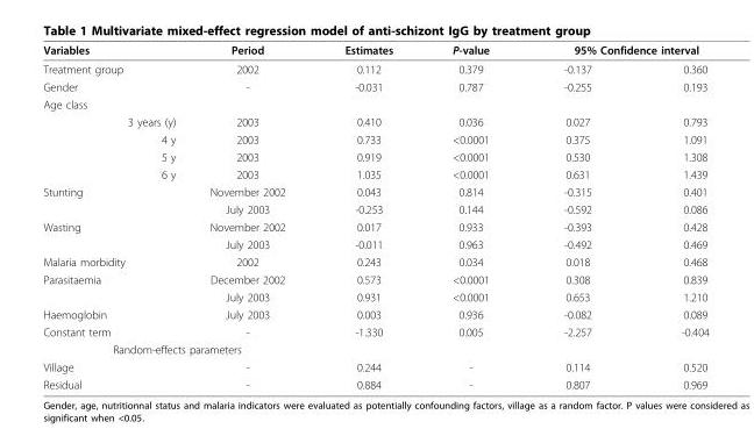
<table><thead><tr><td rowspan="2">Variables Treatment group</td><td rowspan="2">Period 2002</td><td rowspan="2">Estimates 0.112</td><td rowspan="2">P-value 0.379</td><td colspan="2">95% Confidence interval</td></tr><tr><td>-0.137</td><td>0.360</td></tr></thead><tbody><tr><td>Gender</td><td>-</td><td>-0.031</td><td>0.787</td><td>-0.255</td><td>0.193</td></tr><tr><td colspan="6">Age class</td></tr><tr><td>3 years (y)</td><td>2003</td><td>0.410</td><td>0.036</td><td>0.027</td><td>0.793</td></tr><tr><td>4 y</td><td>2003</td><td>0.733</td><td>&lt;0.0001</td><td>0.375</td><td>1.091</td></tr><tr><td>5 y</td><td>2003</td><td>0.919</td><td>&lt;0.0001</td><td>0.530</td><td>1.308</td></tr><tr><td>6 y</td><td>2003</td><td>1.035</td><td>&lt;0.0001</td><td>0.631</td><td>1.439</td></tr><tr><td rowspan="2">Stunting</td><td>November 2002</td><td>0.043</td><td>0.814</td><td>-0.315</td><td>0.401</td></tr><tr><td>July 2003</td><td>-0.253</td><td>0.144</td><td>-0.592</td><td>0.086</td></tr><tr><td rowspan="2">Wasting</td><td>November 2002</td><td>0.017</td><td>0.933</td><td>-0.393</td><td>0.428</td></tr><tr><td>July 2003</td><td>-0.011</td><td>0.963</td><td>-0.492</td><td>0.469</td></tr><tr><td>Malaria morbidity</td><td>2002</td><td>0.243</td><td>0.034</td><td>0.018</td><td>0.468</td></tr><tr><td rowspan="2">Parasitaemia</td><td>December 2002</td><td>0.573</td><td>&lt;0.0001</td><td>0.308</td><td>0.839</td></tr><tr><td>July 2003</td><td>0.931</td><td>&lt;0.0001</td><td>0.653</td><td>1.210</td></tr><tr><td>Haemoglobin</td><td>July 2003</td><td>0.003</td><td>0.936</td><td>-0.082</td><td>0.089</td></tr><tr><td>Constant term</td><td>-</td><td>-1.330</td><td>0.005</td><td>-2.257</td><td>-0.404</td></tr><tr><td colspan="6">Random-effects parameters</td></tr><tr><td>Village</td><td>-</td><td>0.244</td><td>-</td><td>0.114</td><td>0.520</td></tr><tr><td>Residual</td><td>-</td><td>0.884</td><td>-</td><td>0.807</td><td>0.969</td></tr></tbody></table>